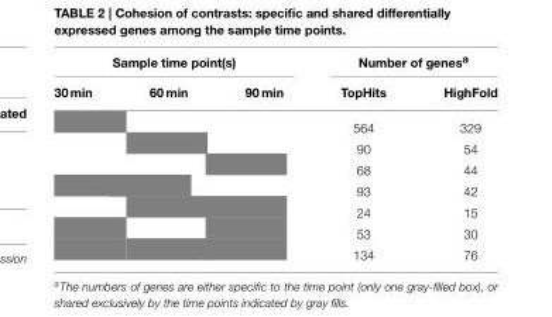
<table><thead><tr><td colspan="3">Sample time point(s)</td><td colspan="2">Number of genes<sup>a</sup></td></tr><tr><td>30 min</td><td>60 min</td><td>90 min</td><td>TopHits</td><td>HighFold</td></tr></thead><tbody><tr><td></td><td></td><td></td><td>564</td><td>329</td></tr><tr><td></td><td></td><td></td><td>90</td><td>54</td></tr><tr><td></td><td></td><td></td><td>68</td><td>44</td></tr><tr><td></td><td></td><td></td><td>93</td><td>42</td></tr><tr><td></td><td></td><td></td><td>24</td><td>15</td></tr><tr><td></td><td></td><td></td><td>53</td><td>30</td></tr><tr><td></td><td></td><td></td><td>134</td><td>76</td></tr></tbody></table>